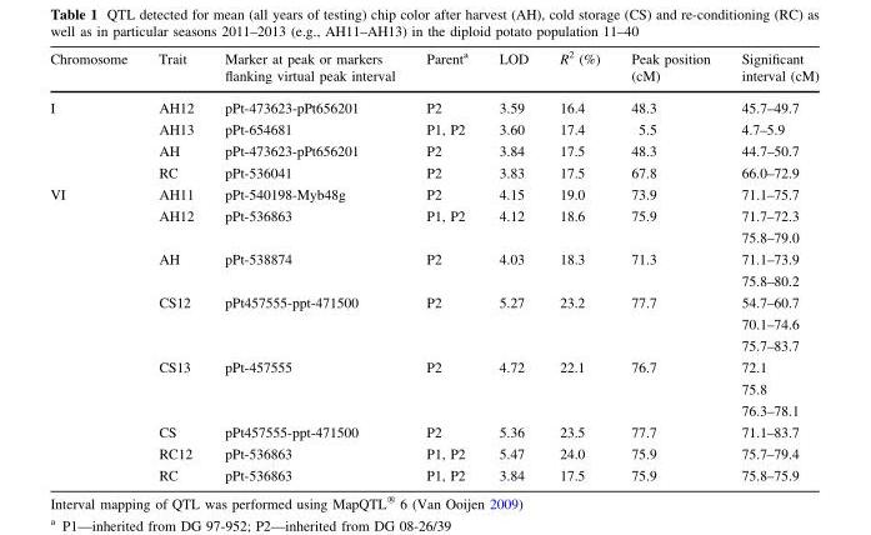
<table><thead><tr><td>Chromosome</td><td>Trait</td><td>Marker at peak or markers flanking virtual peak interval</td><td>Parent<sup>a</sup></td><td>LOD</td><td>R<sup>2</sup> (%)</td><td>Peak position (cM)</td><td>Significant interval (cM)</td></tr></thead><tbody><tr><td rowspan="4">I</td><td>AH12</td><td>pPt-473623-pPt656201</td><td>P2</td><td>3.59</td><td>16.4</td><td>48.3</td><td>45.7–49.7</td></tr><tr><td>AH13</td><td>pPt-654681</td><td>P1, P2</td><td>3.60</td><td>17.4</td><td>5.5</td><td>4.7–5.9</td></tr><tr><td>AH</td><td>pPt-473623-pPt656201</td><td>P2</td><td>3.84</td><td>17.5</td><td>48.3</td><td>44.7–50.7</td></tr><tr><td>RC</td><td>pPt-536041</td><td>P2</td><td>3.83</td><td>17.5</td><td>67.8</td><td>66.0–72.9</td></tr><tr><td rowspan="8">VI</td><td>AH11</td><td>pPt-540198-Myb48g</td><td>P2</td><td>4.15</td><td>19.0</td><td>73.9</td><td>71.1–75.7</td></tr><tr><td>AH12</td><td>pPt-536863</td><td>P1, P2</td><td>4.12</td><td>18.6</td><td>75.9</td><td>71.7–72.3 75.8–79.0</td></tr><tr><td>AH</td><td>pPt-538874</td><td>P2</td><td>4.03</td><td>18.3</td><td>71.3</td><td>71.1–73.9 75.8–80.2</td></tr><tr><td>CS12</td><td>pPt457555-ppt-471500</td><td>P2</td><td>5.27</td><td>23.2</td><td>77.7</td><td>54.7–60.7 70.1–74.6 75.7–83.7</td></tr><tr><td>CS13</td><td>pPt-457555</td><td>P2</td><td>4.72</td><td>22.1</td><td>76.7</td><td>72.1 75.8 76.3–78.1</td></tr><tr><td>CS</td><td>pPt457555-ppt-471500</td><td>P2</td><td>5.36</td><td>23.5</td><td>77.7</td><td>71.1–83.7</td></tr><tr><td>RC12</td><td>pPt-536863</td><td>P1, P2</td><td>5.47</td><td>24.0</td><td>75.9</td><td>75.7–79.4</td></tr><tr><td>RC</td><td>pPt-536863</td><td>P1, P2</td><td>3.84</td><td>17.5</td><td>75.9</td><td>75.8–75.9</td></tr></tbody></table>